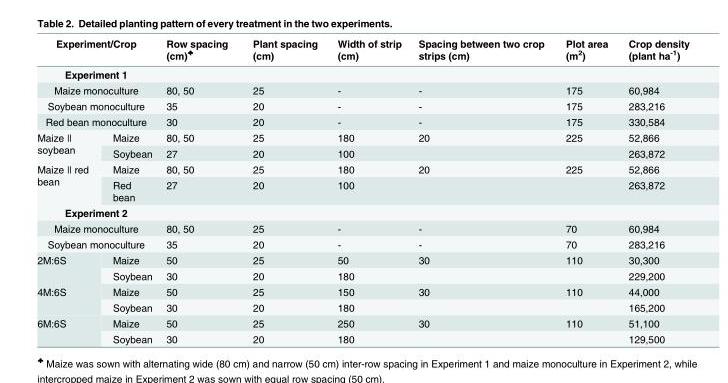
<table><thead><tr><td colspan="2">Experiment/Crop</td><td>Row spacing (cm)<sup>♣</sup></td><td>Plant spacing (cm)</td><td>Width of strip (cm)</td><td>Spacing between two crop strips (cm)</td><td>Plot area (m<sup>2</sup>)</td><td>Crop density (plant ha<sup>-1</sup>)</td></tr></thead><tbody><tr><td colspan="8">Experiment 1</td></tr><tr><td colspan="2">Maize monoculture</td><td>80, 50</td><td>25</td><td>-</td><td>-</td><td>175</td><td>60,984</td></tr><tr><td colspan="2">Soybean monoculture</td><td>35</td><td>20</td><td>-</td><td>-</td><td>175</td><td>283,216</td></tr><tr><td colspan="2">Red bean monoculture</td><td>30</td><td>20</td><td>-</td><td>-</td><td>175</td><td>330,584</td></tr><tr><td rowspan="2">Maize ǁ soybean</td><td>Maize</td><td>80, 50</td><td>25</td><td>180</td><td>20</td><td>225</td><td>52,866</td></tr><tr><td>Soybean</td><td>27</td><td>20</td><td>100</td><td></td><td></td><td>263,872</td></tr><tr><td rowspan="2">Maize ǁ red bean</td><td>Maize</td><td>80, 50</td><td>25</td><td>180</td><td>20</td><td>225</td><td>52,866</td></tr><tr><td>Red bean</td><td>27</td><td>20</td><td>100</td><td></td><td></td><td>263,872</td></tr><tr><td colspan="8">Experiment 2</td></tr><tr><td colspan="2">Maize monoculture</td><td>80, 50</td><td>25</td><td>-</td><td>-</td><td>70</td><td>60,984</td></tr><tr><td colspan="2">Soybean monoculture</td><td>35</td><td>20</td><td>-</td><td>-</td><td>70</td><td>283,216</td></tr><tr><td rowspan="2">2M:6S</td><td>Maize</td><td>50</td><td>25</td><td>50</td><td>30</td><td>110</td><td>30,300</td></tr><tr><td>Soybean</td><td>30</td><td>20</td><td>180</td><td></td><td></td><td>229,200</td></tr><tr><td rowspan="2">4M:6S</td><td>Maize</td><td>50</td><td>25</td><td>150</td><td>30</td><td>110</td><td>44,000</td></tr><tr><td>Soybean</td><td>30</td><td>20</td><td>180</td><td></td><td></td><td>165,200</td></tr><tr><td rowspan="2">6M:6S</td><td>Maize</td><td>50</td><td>25</td><td>250</td><td>30</td><td>110</td><td>51,100</td></tr><tr><td>Soybean</td><td>30</td><td>20</td><td>180</td><td></td><td></td><td>129,500</td></tr></tbody></table>